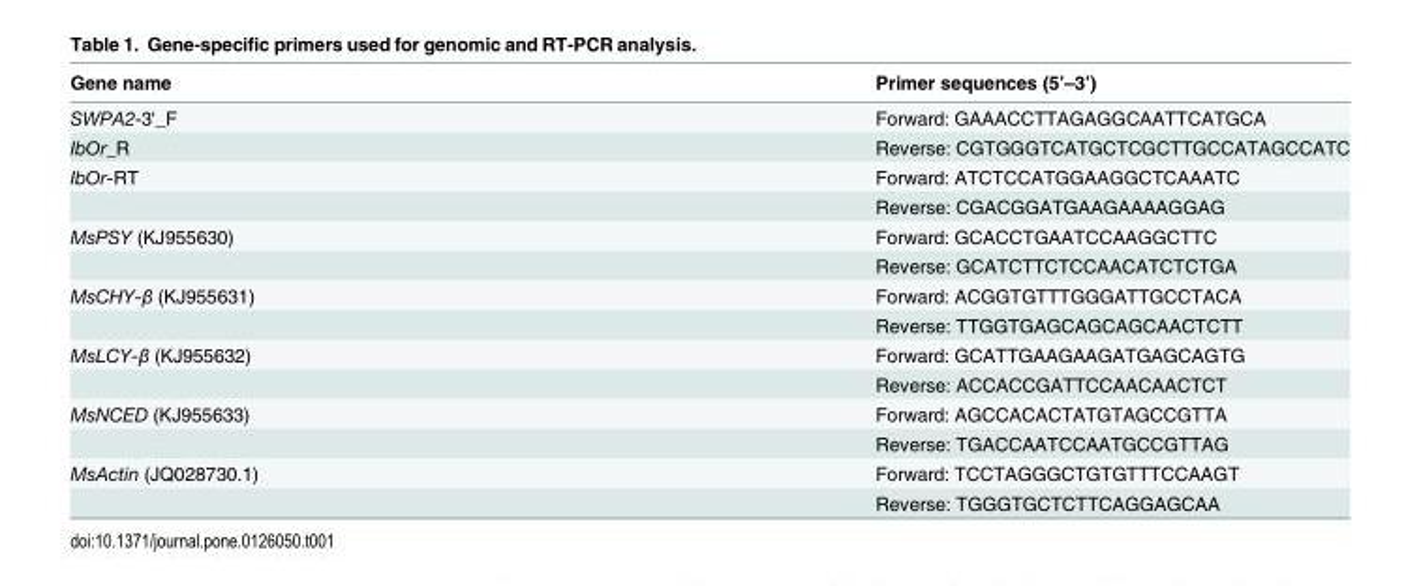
<table><thead><tr><td>Gene name</td><td>Primer sequences (5’–3’)</td></tr></thead><tbody><tr><td>SWPA2-3&#x27;_F</td><td>Forward: GAAACCTTAGAGGCAATTCATGCA</td></tr><tr><td>IbOr_R</td><td>Reverse: CGTGGGTCATGCTCGCTTGCCATAGCCATC</td></tr><tr><td rowspan="2">IbOr-RT</td><td>Forward: ATCTCCATGGAAGGCTCAAATC</td></tr><tr><td>Reverse: CGACGGATGAAGAAAAGGAG</td></tr><tr><td rowspan="2">MsPSY (KJ955630)</td><td>Forward: GCACCTGAATCCAAGGCTTC</td></tr><tr><td>Reverse: GCATCTTCTCCAACATCTCTGA</td></tr><tr><td rowspan="2">MsCHY-β (KJ955631)</td><td>Forward: ACGGTGTTTGGGATTGCCTACA</td></tr><tr><td>Reverse: TTGGTGAGCAGCAGCAACTCTT</td></tr><tr><td rowspan="2">MsLCY-β (KJ955632)</td><td>Forward: GCATTGAAGAAGATGAGCAGTG</td></tr><tr><td>Reverse: ACCACCGATTCCAACAACTCT</td></tr><tr><td rowspan="2">MsNCED (KJ955633)</td><td>Forward: AGCCACACTATGTAGCCGTTA</td></tr><tr><td>Reverse: TGACCAATCCAATGCCGTTAG</td></tr><tr><td rowspan="2">MsActin (JQ028730.1)</td><td>Forward: TCCTAGGGCTGTGTTTCCAAGT</td></tr><tr><td>Reverse: TGGGTGCTCTTCAGGAGCAA</td></tr></tbody></table>